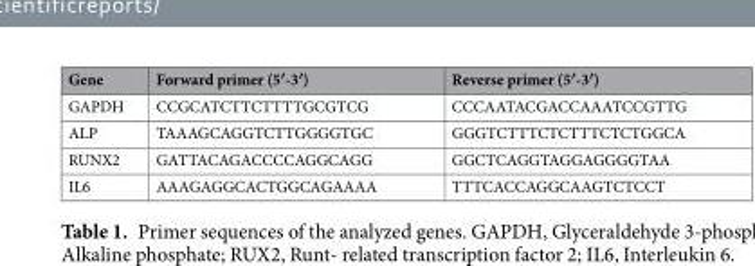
<table><thead><tr><td>Gene</td><td>Forward primer (5′-3′)</td><td>Reverse primer (5′-3′)</td></tr></thead><tbody><tr><td>GAPDH</td><td>CCGCATCTTCTTTTGCGTCG</td><td>CCCAATACGACCAAATCCGTTG</td></tr><tr><td>ALP</td><td>TAAAGCAGGTCTTGGGGTGC</td><td>GGGTCTTTCTCTTTCTCTGGCA</td></tr><tr><td>RUNX2</td><td>GATTACAGACCCCAGGCAGG</td><td>GGCTCAGGTAGGAGGGGTAA</td></tr><tr><td>IL6</td><td>AAAGAGGCACTGGCAGAAAA</td><td>TTTCACCAGGCAAGTCTCCT</td></tr></tbody></table>